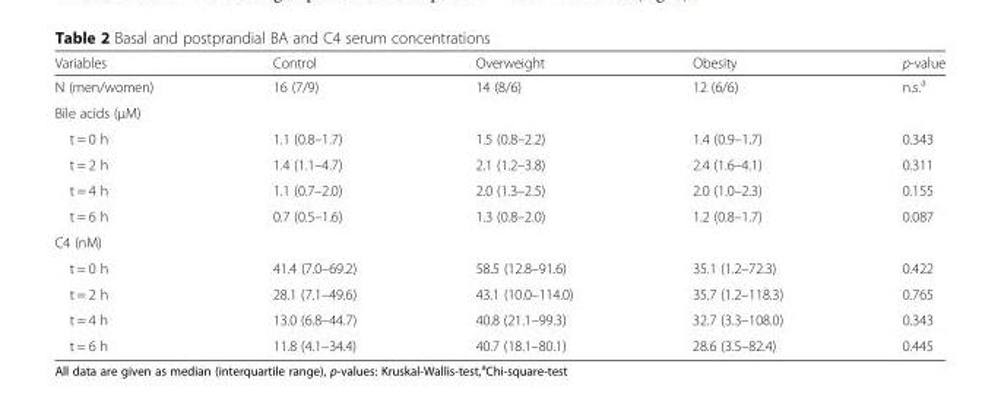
<table><thead><tr><td>Variables</td><td>Control</td><td>Overweight</td><td>Obesity</td><td>p-value</td></tr></thead><tbody><tr><td>N (men/women)</td><td>16 (7/9)</td><td>14 (8/6)</td><td>12 (6/6)</td><td>n.s.<sup>a</sup></td></tr><tr><td colspan="5">Bile acids (μM)</td></tr><tr><td>t = 0 h</td><td>1.1 (0.8–1.7)</td><td>1.5 (0.8–2.2)</td><td>1.4 (0.9–1.7)</td><td>0.343</td></tr><tr><td>t = 2 h</td><td>1.4 (1.1–4.7)</td><td>2.1 (1.2–3.8)</td><td>2.4 (1.6–4.1)</td><td>0.311</td></tr><tr><td>t = 4 h</td><td>1.1 (0.7–2.0)</td><td>2.0 (1.3–2.5)</td><td>2.0 (1.0–2.3)</td><td>0.155</td></tr><tr><td>t = 6 h</td><td>0.7 (0.5–1.6)</td><td>1.3 (0.8–2.0)</td><td>1.2 (0.8–1.7)</td><td>0.087</td></tr><tr><td colspan="5">C4 (nM)</td></tr><tr><td>t = 0 h</td><td>41.4 (7.0–69.2)</td><td>58.5 (12.8–91.6)</td><td>35.1 (1.2–72.3)</td><td>0.422</td></tr><tr><td>t = 2 h</td><td>28.1 (7.1–49.6)</td><td>43.1 (10.0–114.0)</td><td>35.7 (1.2–118.3)</td><td>0.765</td></tr><tr><td>t = 4 h</td><td>13.0 (6.8–44.7)</td><td>40.8 (21.1–99.3)</td><td>32.7 (3.3–108.0)</td><td>0.343</td></tr><tr><td>t = 6 h</td><td>11.8 (4.1–34.4)</td><td>40.7 (18.1–80.1)</td><td>28.6 (3.5–82.4)</td><td>0.445</td></tr></tbody></table>